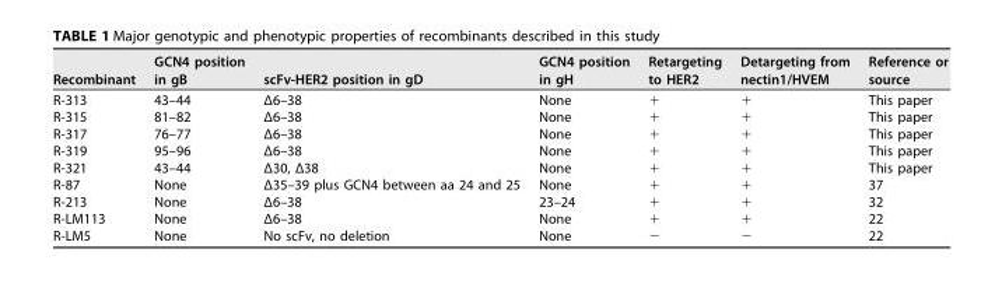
<table><thead><tr><td>Recombinant</td><td>GCN4 position in gB</td><td>scFv-HER2 position in gD</td><td>GCN4 position in gH</td><td>Retargeting to HER2</td><td>Detargeting from nectin1/HVEM</td><td>Reference or source</td></tr></thead><tbody><tr><td>R-313</td><td>43–44</td><td>Δ6–38</td><td>None</td><td>+</td><td>+</td><td>This paper</td></tr><tr><td>R-315</td><td>81–82</td><td>Δ6–38</td><td>None</td><td>+</td><td>+</td><td>This paper</td></tr><tr><td>R-317</td><td>76–77</td><td>Δ6–38</td><td>None</td><td>+</td><td>+</td><td>This paper</td></tr><tr><td>R-319</td><td>95–96</td><td>Δ6–38</td><td>None</td><td>+</td><td>+</td><td>This paper</td></tr><tr><td>R-321</td><td>43–44</td><td>Δ30, Δ38</td><td>None</td><td>+</td><td>+</td><td>This paper</td></tr><tr><td>R-87</td><td>None</td><td>Δ35–39 plus GCN4 between aa 24 and 25</td><td>None</td><td>+</td><td>+</td><td>37</td></tr><tr><td>R-213</td><td>None</td><td>Δ6–38</td><td>23–24</td><td>+</td><td>+</td><td>32</td></tr><tr><td>R-LM113</td><td>None</td><td>Δ6–38</td><td>None</td><td>+</td><td>+</td><td>22</td></tr><tr><td>R-LM5</td><td>None</td><td>No scFv, no deletion</td><td>None</td><td>−</td><td>−</td><td>22</td></tr></tbody></table>